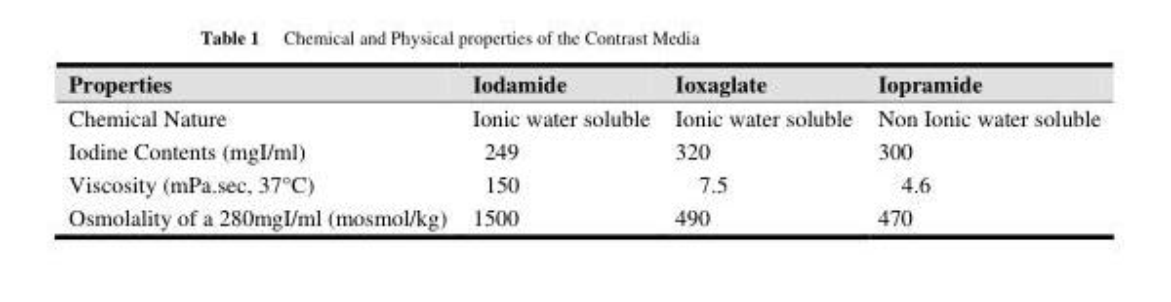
<table><thead><tr><td>Properties</td><td>Iodamide</td><td>Ioxaglate</td><td>Iopramide</td></tr></thead><tbody><tr><td>Chemical Nature</td><td>Ionic water soluble</td><td>Ionic water soluble</td><td>Non Ionic water soluble</td></tr><tr><td>Iodine Contents (mgI/ml)</td><td>249</td><td>320</td><td>300</td></tr><tr><td>Viscosity (mPa.sec, 37°C)</td><td>150</td><td>7.5</td><td>4.6</td></tr><tr><td>Osmolality of a 280mgI/ml (mosmol/kg)</td><td>1500</td><td>490</td><td>470</td></tr></tbody></table>